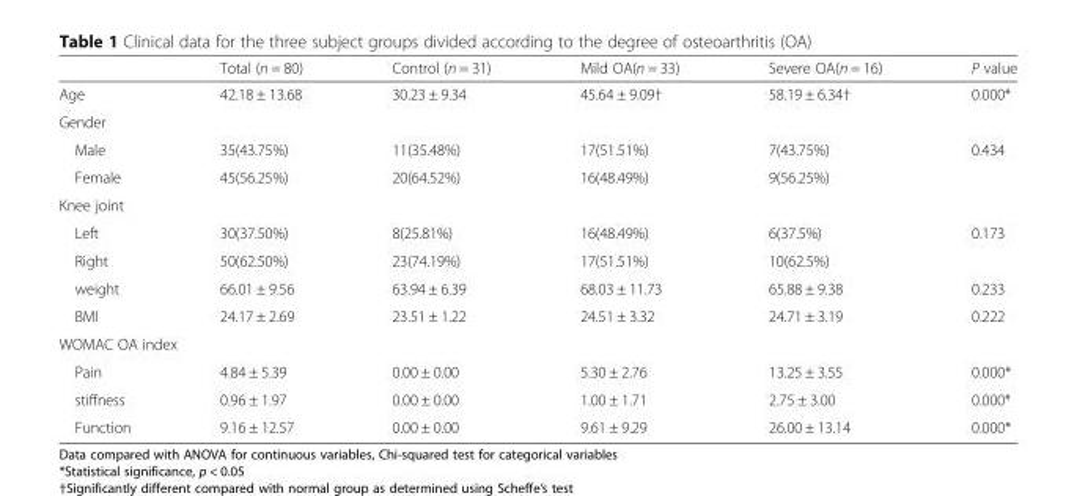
<table><thead><tr><td></td><td>Total (n = 80)</td><td>Control (n = 31)</td><td>Mild OA(n = 33)</td><td>Severe OA(n = 16)</td><td>P value</td></tr></thead><tbody><tr><td>Age</td><td>42.18 ± 13.68</td><td>30.23 ± 9.34</td><td>45.64 ± 9.09†</td><td>58.19 ± 6.34†</td><td>0.000*</td></tr><tr><td colspan="6">Gender</td></tr><tr><td>Male</td><td>35(43.75%)</td><td>11(35.48%)</td><td>17(51.51%)</td><td>7(43.75%)</td><td>0.434</td></tr><tr><td>Female</td><td>45(56.25%)</td><td>20(64.52%)</td><td>16(48.49%)</td><td>9(56.25%)</td><td></td></tr><tr><td colspan="6">Knee joint</td></tr><tr><td>Left</td><td>30(37.50%)</td><td>8(25.81%)</td><td>16(48.49%)</td><td>6(37.5%)</td><td>0.173</td></tr><tr><td>Right</td><td>50(62.50%)</td><td>23(74.19%)</td><td>17(51.51%)</td><td>10(62.5%)</td><td></td></tr><tr><td>weight</td><td>66.01 ± 9.56</td><td>63.94 ± 6.39</td><td>68.03 ± 11.73</td><td>65.88 ± 9.38</td><td>0.233</td></tr><tr><td>BMI</td><td>24.17 ± 2.69</td><td>23.51 ± 1.22</td><td>24.51 ± 3.32</td><td>24.71 ± 3.19</td><td>0.222</td></tr><tr><td colspan="6">WOMAC OA index</td></tr><tr><td>Pain</td><td>4.84 ± 5.39</td><td>0.00 ± 0.00</td><td>5.30 ± 2.76</td><td>13.25 ± 3.55</td><td>0.000*</td></tr><tr><td>stiffness</td><td>0.96 ± 1.97</td><td>0.00 ± 0.00</td><td>1.00 ± 1.71</td><td>2.75 ± 3.00</td><td>0.000*</td></tr><tr><td>Function</td><td>9.16 ± 12.57</td><td>0.00 ± 0.00</td><td>9.61 ± 9.29</td><td>26.00 ± 13.14</td><td>0.000*</td></tr></tbody></table>